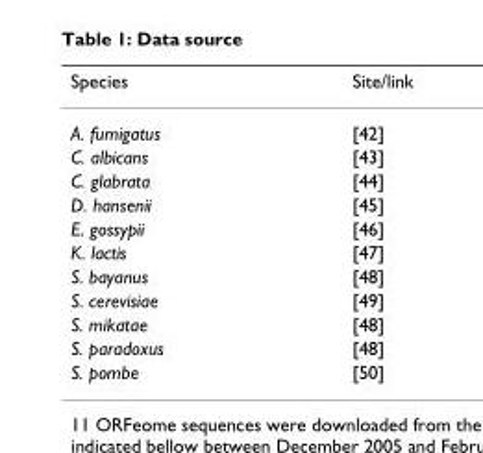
<table><thead><tr><td>Species</td><td>Site/link</td></tr></thead><tbody><tr><td>A. fumigatus</td><td>[42]</td></tr><tr><td>C. albicans</td><td>[43]</td></tr><tr><td>C. glabrata</td><td>[44]</td></tr><tr><td>D. hansenii</td><td>[45]</td></tr><tr><td>E. gossypii</td><td>[46]</td></tr><tr><td>K. lactis</td><td>[47]</td></tr><tr><td>S. bayanus</td><td>[48]</td></tr><tr><td>S. cerevisiae</td><td>[49]</td></tr><tr><td>S. mikatae</td><td>[48]</td></tr><tr><td>S. paradoxus</td><td>[48]</td></tr><tr><td>S. pombe</td><td>[50]</td></tr></tbody></table>